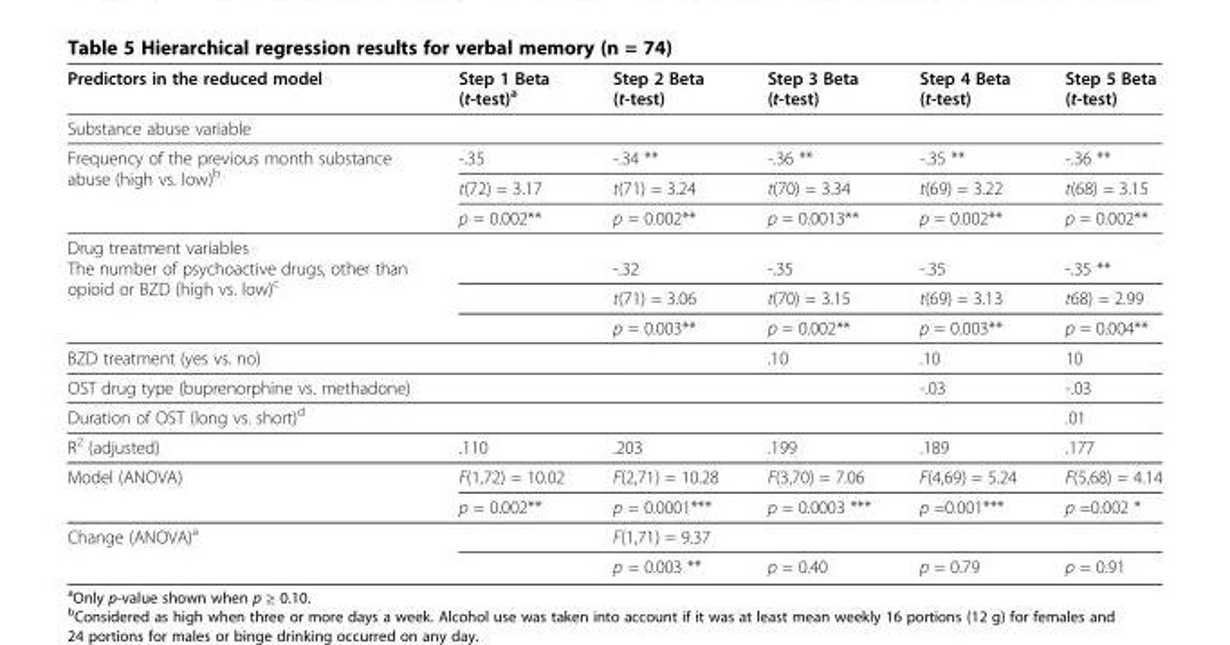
<table><thead><tr><td>Predictors in the reduced model</td><td>Step 1 Beta (t-test)<sup>a</sup></td><td>Step 2 Beta (t-test)</td><td>Step 3 Beta (t-test)</td><td>Step 4 Beta (t-test)</td><td>Step 5 Beta (t-test)</td></tr></thead><tbody><tr><td colspan="6">Substance abuse variable</td></tr><tr><td rowspan="3">Frequency of the previous month substance abuse (high vs. low)<sup>b</sup></td><td>-.35</td><td>-.34 **</td><td>-.36 **</td><td>-.35 **</td><td>-.36 **</td></tr><tr><td>t(72) = 3.17</td><td>t(71) = 3.24</td><td>t(70) = 3.34</td><td>t(69) = 3.22</td><td>t(68) = 3.15</td></tr><tr><td>p = 0.002**</td><td>p = 0.002**</td><td>p = 0.0013**</td><td>p = 0.002**</td><td>p = 0.002**</td></tr><tr><td colspan="6">Drug treatment variables</td></tr><tr><td rowspan="3">The number of psychoactive drugs, other than opioid or BZD (high vs. low)<sup>c</sup></td><td></td><td>-.32</td><td>-.35</td><td>-.35</td><td>-.35 **</td></tr><tr><td></td><td>t(71) = 3.06</td><td>t(70) = 3.15</td><td>t(69) = 3.13</td><td>t68) = 2.99</td></tr><tr><td></td><td>p = 0.003**</td><td>p = 0.002**</td><td>p = 0.003**</td><td>p = 0.004**</td></tr><tr><td>BZD treatment (yes vs. no)</td><td></td><td></td><td>.10</td><td>.10</td><td>10</td></tr><tr><td>OST drug type (buprenorphine vs. methadone)</td><td></td><td></td><td></td><td>-.03</td><td>-.03</td></tr><tr><td>Duration of OST (long vs. short)<sup>d</sup></td><td></td><td></td><td></td><td></td><td>.01</td></tr><tr><td>R<sup>2</sup> (adjusted)</td><td>.110</td><td>.203</td><td>.199</td><td>.189</td><td>.177</td></tr><tr><td rowspan="2">Model (ANOVA)</td><td>F(1,72) = 10.02</td><td>F(2,71) = 10.28</td><td>F(3,70) = 7.06</td><td>F(4,69) = 5.24</td><td>F(5,68) = 4.14</td></tr><tr><td>p = 0.002**</td><td>p = 0.0001***</td><td>p = 0.0003 ***</td><td>p =0.001***</td><td>p =0.002 *</td></tr><tr><td rowspan="2">Change (ANOVA)<sup>a</sup></td><td></td><td>F(1,71) = 9.37</td><td></td><td></td><td></td></tr><tr><td></td><td>p = 0.003 **</td><td>p = 0.40</td><td>p = 0.79</td><td>p = 0.91</td></tr></tbody></table>